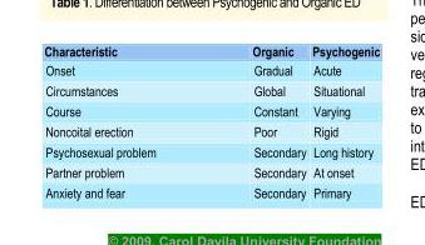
<table><thead><tr><td>Characteristic</td><td>Organic</td><td>Psychogenic</td></tr></thead><tbody><tr><td>Onset</td><td>Gradual</td><td>Acute</td></tr><tr><td>Circumstances</td><td>Global</td><td>Situational</td></tr><tr><td>Course</td><td>Constant</td><td>Varying</td></tr><tr><td>Noncoital erection</td><td>Poor</td><td>Rigid</td></tr><tr><td>Psychosexual problem</td><td>Secondary</td><td>Long history</td></tr><tr><td>Partner problem</td><td>Secondary</td><td>At onset</td></tr><tr><td>Anxiety and fear</td><td>Secondary</td><td>Primary</td></tr></tbody></table>